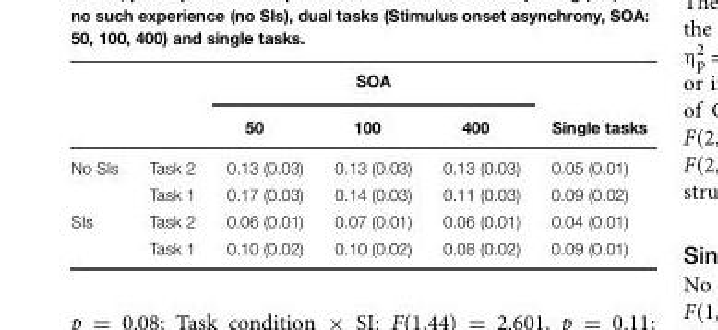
<table><thead><tr><td rowspan="2"></td><td rowspan="2"></td><td colspan="3">SOA</td><td rowspan="2">Single tasks</td></tr><tr><td>50</td><td>100</td><td>400</td></tr></thead><tbody><tr><td rowspan="2">No SIs</td><td>Task 2</td><td>0.13 (0.03)</td><td>0.13 (0.03)</td><td>0.13 (0.03)</td><td>0.05 (0.01)</td></tr><tr><td>Task 1</td><td>0.17 (0.03)</td><td>0.14 (0.03)</td><td>0.11 (0.03)</td><td>0.09 (0.02)</td></tr><tr><td rowspan="2">SIs</td><td>Task 2</td><td>0.06 (0.01)</td><td>0.07 (0.01)</td><td>0.06 (0.01)</td><td>0.04 (0.01)</td></tr><tr><td>Task 1</td><td>0.10 (0.02)</td><td>0.10 (0.02)</td><td>0.08 (0.02)</td><td>0.09 (0.01)</td></tr></tbody></table>